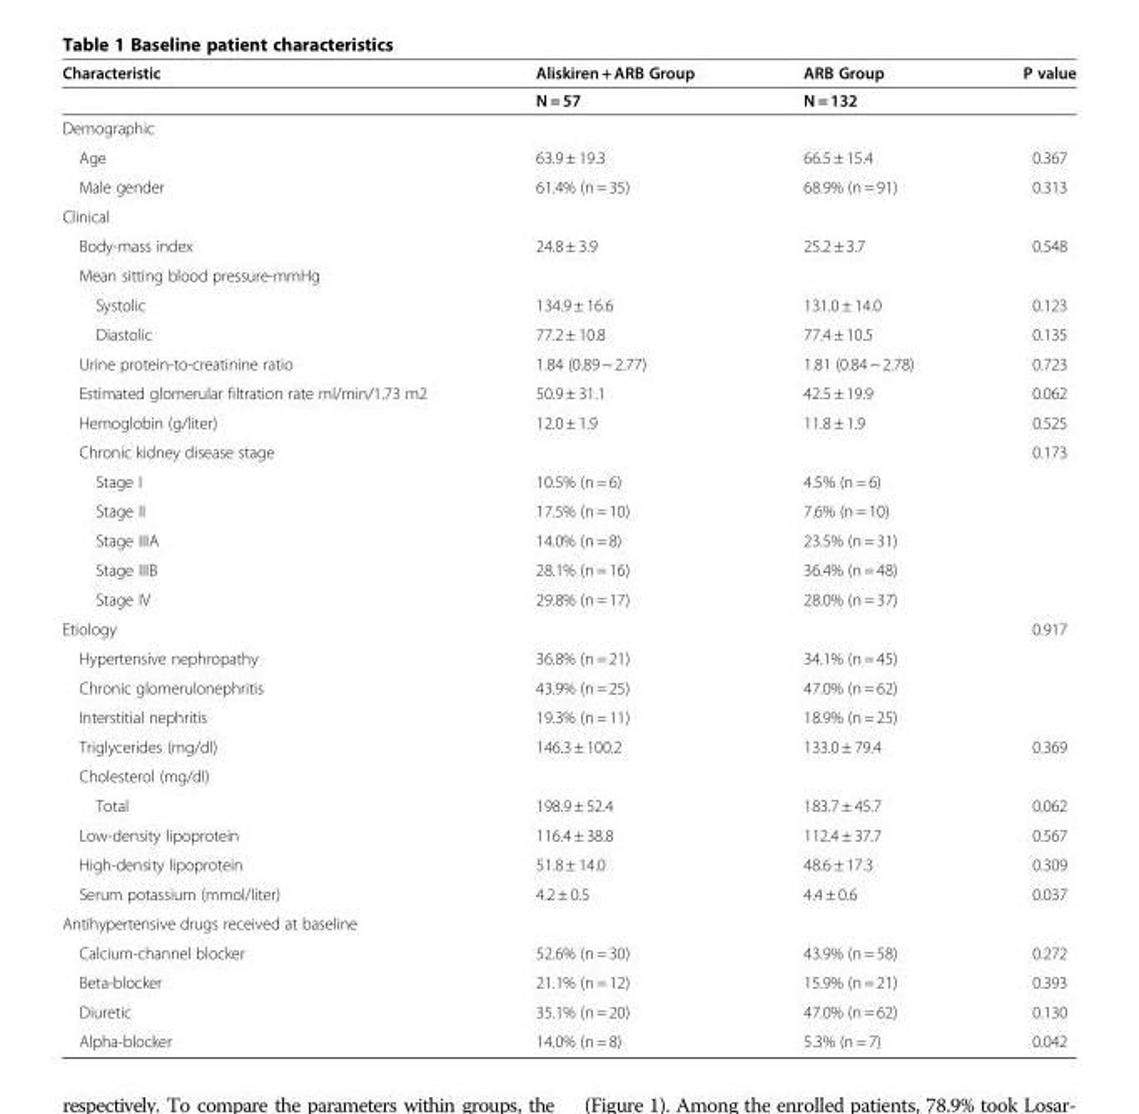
<table><thead><tr><td>Characteristic</td><td>Aliskiren + ARB Group</td><td>ARB Group</td><td>P value</td></tr></thead><tbody><tr><td></td><td>N = 57</td><td>N = 132</td><td></td></tr><tr><td colspan="4">Demographic</td></tr><tr><td>Age</td><td>63.9 ± 19.3</td><td>66.5 ± 15.4</td><td>0.367</td></tr><tr><td>Male gender</td><td>61.4% (n = 35)</td><td>68.9% (n = 91)</td><td>0.313</td></tr><tr><td colspan="4">Clinical</td></tr><tr><td>Body-mass index</td><td>24.8 ± 3.9</td><td>25.2 ± 3.7</td><td>0.548</td></tr><tr><td colspan="4">Mean sitting blood pressure-mmHg</td></tr><tr><td>Systolic</td><td>134.9 ± 16.6</td><td>131.0 ± 14.0</td><td>0.123</td></tr><tr><td>Diastolic</td><td>77.2 ± 10.8</td><td>77.4 ± 10.5</td><td>0.135</td></tr><tr><td>Urine protein-to-creatinine ratio</td><td>1.84 (0.89 ~ 2.77)</td><td>1.81 (0.84 ~ 2.78)</td><td>0.723</td></tr><tr><td>Estimated glomerular filtration rate ml/min/1.73 m2</td><td>50.9 ± 31.1</td><td>42.5 ± 19.9</td><td>0.062</td></tr><tr><td>Hemoglobin (g/liter)</td><td>12.0 ± 1.9</td><td>11.8 ± 1.9</td><td>0.525</td></tr><tr><td>Chronic kidney disease stage</td><td></td><td></td><td>0.173</td></tr><tr><td>Stage I</td><td>10.5% (n = 6)</td><td>4.5% (n = 6)</td><td></td></tr><tr><td>Stage II</td><td>17.5% (n = 10)</td><td>7.6% (n = 10)</td><td></td></tr><tr><td>Stage IIIA</td><td>14.0% (n = 8)</td><td>23.5% (n = 31)</td><td></td></tr><tr><td>Stage IIIB</td><td>28.1% (n = 16)</td><td>36.4% (n = 48)</td><td></td></tr><tr><td>Stage IV</td><td>29.8% (n = 17)</td><td>28.0% (n = 37)</td><td></td></tr><tr><td>Etiology</td><td></td><td></td><td>0.917</td></tr><tr><td>Hypertensive nephropathy</td><td>36.8% (n = 21)</td><td>34.1% (n = 45)</td><td></td></tr><tr><td>Chronic glomerulonephritis</td><td>43.9% (n = 25)</td><td>47.0% (n = 62)</td><td></td></tr><tr><td>Interstitial nephritis</td><td>19.3% (n = 11)</td><td>18.9% (n = 25)</td><td></td></tr><tr><td>Triglycerides (mg/dl)</td><td>146.3 ± 100.2</td><td>133.0 ± 79.4</td><td>0.369</td></tr><tr><td colspan="4">Cholesterol (mg/dl)</td></tr><tr><td>Total</td><td>198.9 ± 52.4</td><td>183.7 ± 45.7</td><td>0.062</td></tr><tr><td>Low-density lipoprotein</td><td>116.4 ± 38.8</td><td>112.4 ± 37.7</td><td>0.567</td></tr><tr><td>High-density lipoprotein</td><td>51.8 ± 14.0</td><td>48.6 ± 17.3</td><td>0.309</td></tr><tr><td>Serum potassium (mmol/liter)</td><td>4.2 ± 0.5</td><td>4.4 ± 0.6</td><td>0.037</td></tr><tr><td colspan="4">Antihypertensive drugs received at baseline</td></tr><tr><td>Calcium-channel blocker</td><td>52.6% (n = 30)</td><td>43.9% (n = 58)</td><td>0.272</td></tr><tr><td>Beta-blocker</td><td>21.1% (n = 12)</td><td>15.9% (n = 21)</td><td>0.393</td></tr><tr><td>Diuretic</td><td>35.1% (n = 20)</td><td>47.0% (n = 62)</td><td>0.130</td></tr><tr><td>Alpha-blocker</td><td>14.0% (n = 8)</td><td>5.3% (n = 7)</td><td>0.042</td></tr></tbody></table>